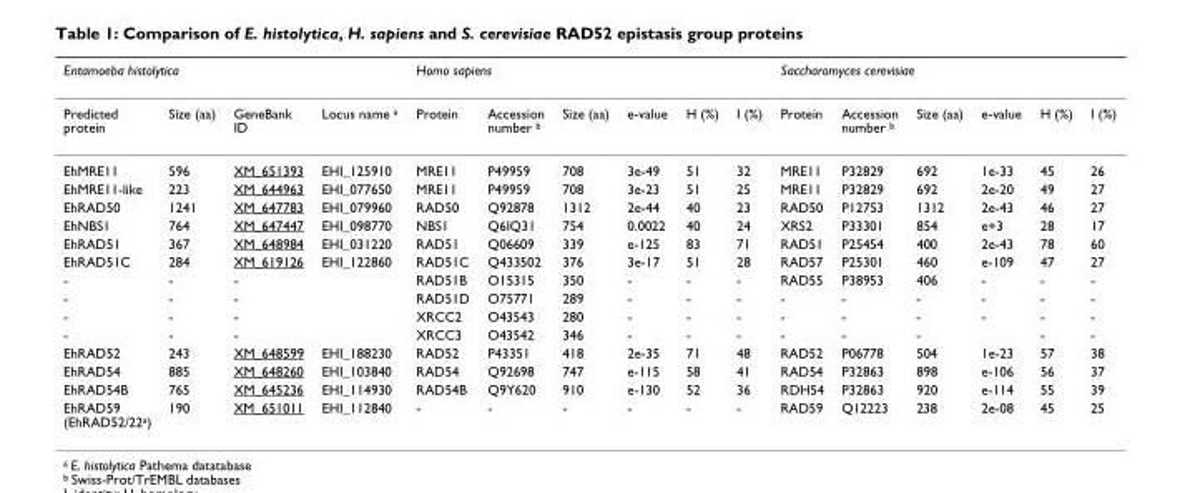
<table><thead><tr><td colspan="4">Entamoeba histolytica</td><td colspan="6">Homo sapiens</td><td colspan="6">Saccharomyces cerevisiae</td></tr><tr><td>Predicted protein</td><td>Size (aa)</td><td>GeneBank ID</td><td>Locus name <sup>a</sup></td><td>Protein</td><td>Accession number <sup>b</sup></td><td>Size (aa)</td><td>e-value</td><td>H (%)</td><td>I (%)</td><td>Protein</td><td>Accession number <sup>b</sup></td><td>Size (aa)</td><td>e-value</td><td>H (%)</td><td>I (%)</td></tr></thead><tbody><tr><td>EhMRE11</td><td>596</td><td>XM_651393</td><td>EHI_125910</td><td>MRE11</td><td>P49959</td><td>708</td><td>3e-49</td><td>51</td><td>32</td><td>MRE11</td><td>P32829</td><td>692</td><td>1e-33</td><td>45</td><td>26</td></tr><tr><td>EhMRE11-like</td><td>223</td><td>XM_644963</td><td>EHI_077650</td><td>MRE11</td><td>P49959</td><td>708</td><td>3e-23</td><td>51</td><td>25</td><td>MRE11</td><td>P32829</td><td>692</td><td>2e-20</td><td>49</td><td>27</td></tr><tr><td>EhRAD50</td><td>1241</td><td>XM_647783</td><td>EHI_079960</td><td>RAD50</td><td>Q92878</td><td>1312</td><td>2e-44</td><td>40</td><td>23</td><td>RAD50</td><td>P12753</td><td>1312</td><td>2e-43</td><td>46</td><td>27</td></tr><tr><td>EhNBS1</td><td>764</td><td>XM_647447</td><td>EHI_098770</td><td>NBS1</td><td>Q6IQ31</td><td>754</td><td>0.0022</td><td>40</td><td>24</td><td>XRS2</td><td>P33301</td><td>854</td><td>e+3</td><td>28</td><td>17</td></tr><tr><td>EhRAD51</td><td>367</td><td>XM_648984</td><td>EHI_031220</td><td>RAD51</td><td>Q06609</td><td>339</td><td>e-125</td><td>83</td><td>71</td><td>RAD51</td><td>P25454</td><td>400</td><td>2e-43</td><td>78</td><td>60</td></tr><tr><td>EhRAD51C</td><td>284</td><td>XM_619126</td><td>EHI_122860</td><td>RAD51C</td><td>Q433502</td><td>376</td><td>3e-17</td><td>51</td><td>28</td><td>RAD57</td><td>P25301</td><td>460</td><td>e-109</td><td>47</td><td>27</td></tr><tr><td>-</td><td>-</td><td>-</td><td></td><td>RAD51B</td><td>O15315</td><td>350</td><td>-</td><td>-</td><td>-</td><td>RAD55</td><td>P38953</td><td>406</td><td>-</td><td>-</td><td>-</td></tr><tr><td>-</td><td>-</td><td>-</td><td></td><td>RAD51D</td><td>O75771</td><td>289</td><td>-</td><td>-</td><td>-</td><td>-</td><td>-</td><td>-</td><td>-</td><td>-</td><td>-</td></tr><tr><td>-</td><td>-</td><td>-</td><td></td><td>XRCC2</td><td>O43543</td><td>280</td><td>-</td><td>-</td><td>-</td><td>-</td><td>-</td><td>-</td><td>-</td><td>-</td><td>-</td></tr><tr><td>-</td><td>-</td><td>-</td><td></td><td>XRCC3</td><td>O43542</td><td>346</td><td>-</td><td>-</td><td>-</td><td>-</td><td>-</td><td>-</td><td></td><td>-</td><td>-</td></tr><tr><td>EhRAD52</td><td>243</td><td>XM_648599</td><td>EHI_188230</td><td>RAD52</td><td>P43351</td><td>418</td><td>2e-35</td><td>71</td><td>48</td><td>RAD52</td><td>P06778</td><td>504</td><td>1e-23</td><td>57</td><td>38</td></tr><tr><td>EhRAD54</td><td>885</td><td>XM_648260</td><td>EHI_103840</td><td>RAD54</td><td>Q92698</td><td>747</td><td>e-115</td><td>58</td><td>41</td><td>RAD54</td><td>P32863</td><td>898</td><td>e-106</td><td>56</td><td>37</td></tr><tr><td>EhRAD54B</td><td>765</td><td>XM_645236</td><td>EHI_114930</td><td>RAD54B</td><td>Q9Y620</td><td>910</td><td>e-130</td><td>52</td><td>36</td><td>RDH54</td><td>P32863</td><td>920</td><td>e-114</td><td>55</td><td>39</td></tr><tr><td>EhRAD59 (EhRAD52/22<sup>a</sup>)</td><td>190</td><td>XM_651011</td><td>EHI_112840</td><td>-</td><td>-</td><td>-</td><td>-</td><td>-</td><td>-</td><td>RAD59</td><td>Q12223</td><td>238</td><td>2e-08</td><td>45</td><td>25</td></tr></tbody></table>